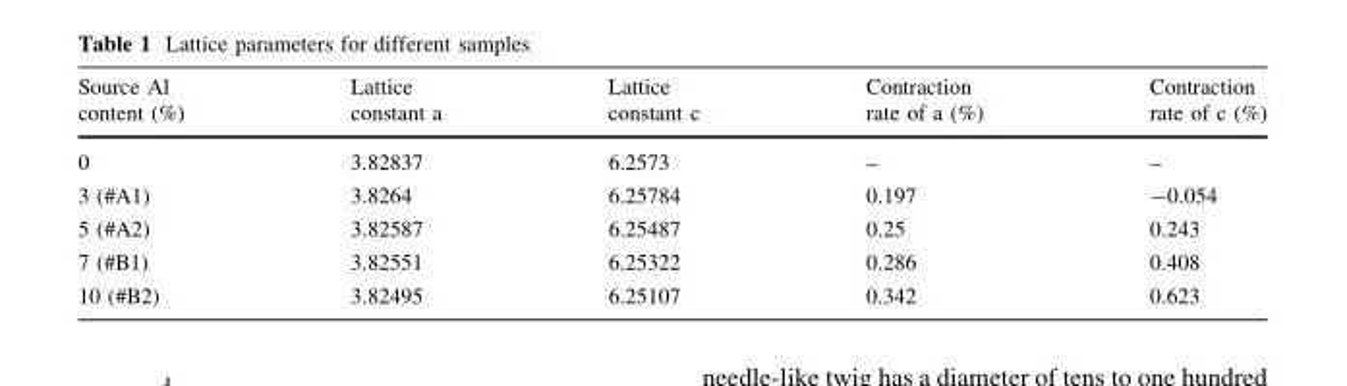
<table><thead><tr><td>Source Al content (%)</td><td>Lattice constant a</td><td>Lattice constant c</td><td>Contraction rate of a (%)</td><td>Contraction rate of c (%)</td></tr></thead><tbody><tr><td>0</td><td>3.82837</td><td>6.2573</td><td>–</td><td>–</td></tr><tr><td>3 (#A1)</td><td>3.8264</td><td>6.25784</td><td>0.197</td><td>-0.054</td></tr><tr><td>5 (#A2)</td><td>3.82587</td><td>6.25487</td><td>0.25</td><td>0.243</td></tr><tr><td>7 (#B1)</td><td>3.82551</td><td>6.25322</td><td>0.286</td><td>0.408</td></tr><tr><td>10 (#B2)</td><td>3.82495</td><td>6.25107</td><td>0.342</td><td>0.623</td></tr></tbody></table>